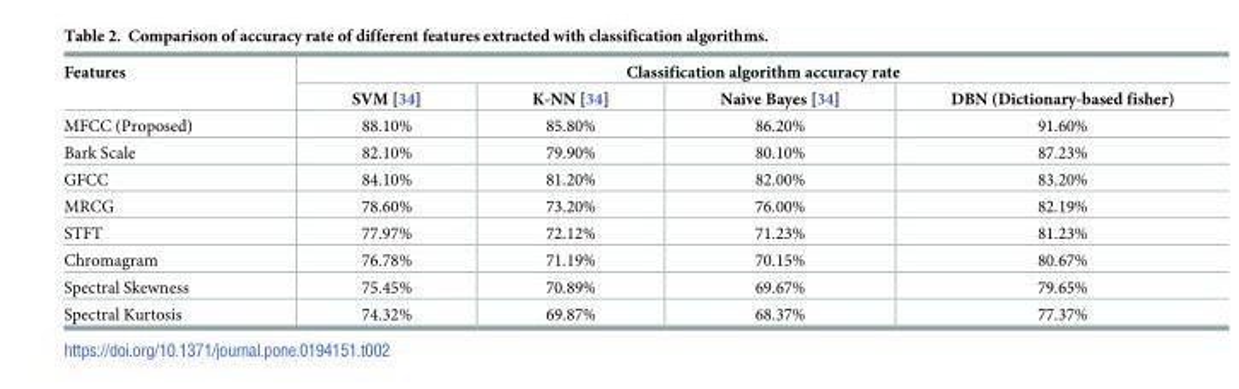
<table><thead><tr><td rowspan="2">Features</td><td colspan="4">Classification algorithm accuracy rate</td></tr><tr><td>SVM [34]</td><td>K-NN [34]</td><td>Naive Bayes [34]</td><td>DBN (Dictionary-based fisher)</td></tr></thead><tbody><tr><td>MFCC (Proposed)</td><td>88.10%</td><td>85.80%</td><td>86.20%</td><td>91.60%</td></tr><tr><td>Bark Scale</td><td>82.10%</td><td>79.90%</td><td>80.10%</td><td>87.23%</td></tr><tr><td>GFCC</td><td>84.10%</td><td>81.20%</td><td>82.00%</td><td>83.20%</td></tr><tr><td>MRCG</td><td>78.60%</td><td>73.20%</td><td>76.00%</td><td>82.19%</td></tr><tr><td>STFT</td><td>77.97%</td><td>72.12%</td><td>71.23%</td><td>81.23%</td></tr><tr><td>Chromagram</td><td>76.78%</td><td>71.19%</td><td>70.15%</td><td>80.67%</td></tr><tr><td>Spectral Skewness</td><td>75.45%</td><td>70.89%</td><td>69.67%</td><td>79.65%</td></tr><tr><td>Spectral Kurtosis</td><td>74.32%</td><td>69.87%</td><td>68.37%</td><td>77.37%</td></tr></tbody></table>